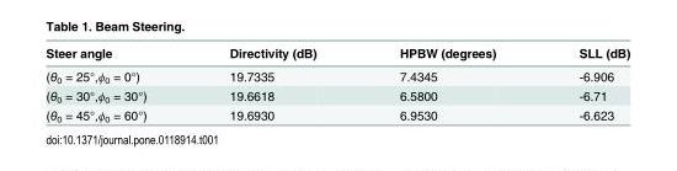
<table><thead><tr><td>Steer angle</td><td>Directivity (dB)</td><td>HPBW (degrees)</td><td>SLL (dB)</td></tr></thead><tbody><tr><td>(θ<sub>0</sub> = 25°,ϕ<sub>0</sub> = 0°)</td><td>19.7335</td><td>7.4345</td><td>-6.906</td></tr><tr><td>(θ<sub>0</sub> = 30°,ϕ<sub>0</sub> = 30°)</td><td>19.6618</td><td>6.5800</td><td>-6.71</td></tr><tr><td>(θ<sub>0</sub> = 45°,ϕ<sub>0</sub> = 60°)</td><td>19.6930</td><td>6.9530</td><td>-6.623</td></tr></tbody></table>